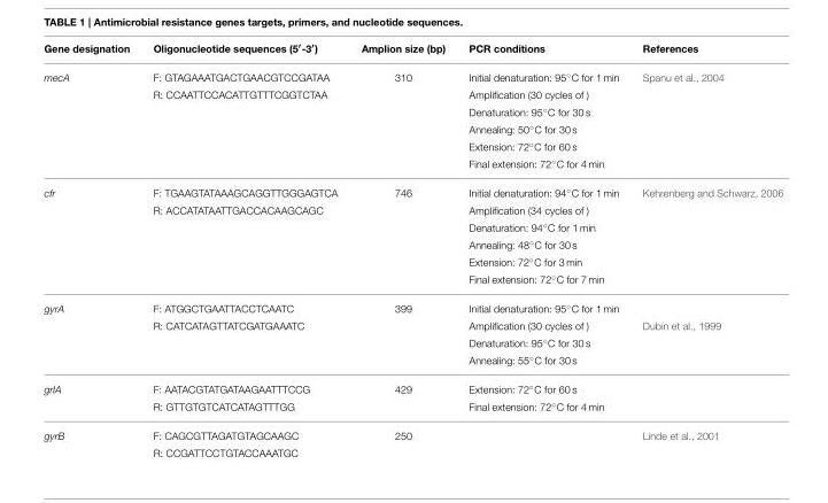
<table><thead><tr><td>Gene designation</td><td>Oligonucleotide sequences (5′-3′)</td><td>Amplion size (bp)</td><td>PCR conditions</td><td>References</td></tr></thead><tbody><tr><td rowspan="6">mecA</td><td>F: GTAGAAATGACTGAACGTCCGATAA</td><td>310</td><td>Initial denaturation: 95◦C for 1 min</td><td>Spanu et al., 2004</td></tr><tr><td>R: CCAATTCCACATTGTTTCGGTCTAA</td><td></td><td>Amplification (30 cycles of )</td><td></td></tr><tr><td></td><td></td><td>Denaturation: 95◦C for 30 s</td><td></td></tr><tr><td></td><td></td><td>Annealing: 50◦C for 30 s</td><td></td></tr><tr><td></td><td></td><td>Extension: 72◦C for 60 s</td><td></td></tr><tr><td></td><td></td><td>Final extension: 72◦C for 4 min</td><td></td></tr><tr><td rowspan="6">cfr</td><td>F: TGAAGTATAAAGCAGGTTGGGAGTCA</td><td>746</td><td>Initial denaturation: 94◦C for 1 min</td><td>Kehrenberg and Schwarz, 2006</td></tr><tr><td>R: ACCATATAATTGACCACAAGCAGC</td><td></td><td>Amplification (34 cycles of )</td><td></td></tr><tr><td></td><td></td><td>Denaturation: 94◦C for 1 min</td><td></td></tr><tr><td></td><td></td><td>Annealing: 48◦C for 30 s</td><td></td></tr><tr><td></td><td></td><td>Extension: 72◦C for 3 min</td><td></td></tr><tr><td></td><td></td><td>Final extension: 72◦C for 7 min</td><td></td></tr><tr><td rowspan="4">gyrA</td><td>F: ATGGCTGAATTACCTCAATC</td><td>399</td><td>Initial denaturation: 95◦C for 1 min</td><td></td></tr><tr><td>R: CATCATAGTTATCGATGAAATC</td><td></td><td>Amplification (30 cycles of )</td><td>Dubin et al., 1999</td></tr><tr><td></td><td></td><td>Denaturation: 95◦C for 30 s</td><td></td></tr><tr><td></td><td></td><td>Annealing: 55◦C for 30 s</td><td></td></tr><tr><td rowspan="2">grlA</td><td>F: AATACGTATGATAAGAATTTCCG</td><td>429</td><td>Extension: 72◦C for 60 s</td><td></td></tr><tr><td>R: GTTGTGTCATCATAGTTTGG</td><td></td><td>Final extension: 72◦C for 4 min</td><td></td></tr><tr><td rowspan="2">gyrB</td><td>F: CAGCGTTAGATGTAGCAAGC</td><td>250</td><td></td><td>Linde et al., 2001</td></tr><tr><td>R: CCGATTCCTGTACCAAATGC</td><td></td><td></td><td></td></tr></tbody></table>